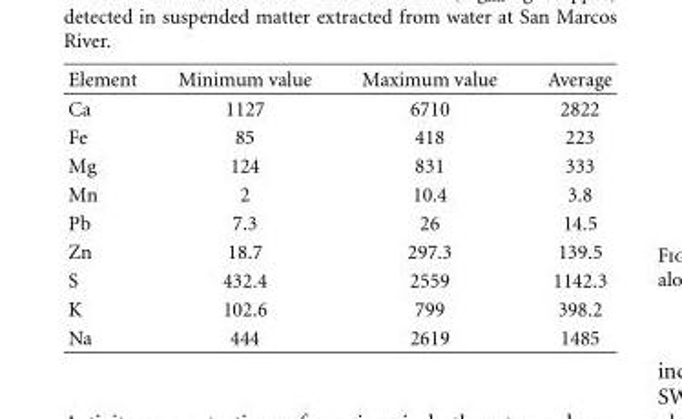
<table><thead><tr><td>Element</td><td>Minimum value</td><td>Maximum value</td><td>Average</td></tr></thead><tbody><tr><td>Ca</td><td>1127</td><td>6710</td><td>2822</td></tr><tr><td>Fe</td><td>85</td><td>418</td><td>223</td></tr><tr><td>Mg</td><td>124</td><td>831</td><td>333</td></tr><tr><td>Mn</td><td>2</td><td>10.4</td><td>3.8</td></tr><tr><td>Pb</td><td>7.3</td><td>26</td><td>14.5</td></tr><tr><td>Zn</td><td>18.7</td><td>297.3</td><td>139.5</td></tr><tr><td>S</td><td>432.4</td><td>2559</td><td>1142.3</td></tr><tr><td>K</td><td>102.6</td><td>799</td><td>398.2</td></tr><tr><td>Na</td><td>444</td><td>2619</td><td>1485</td></tr></tbody></table>